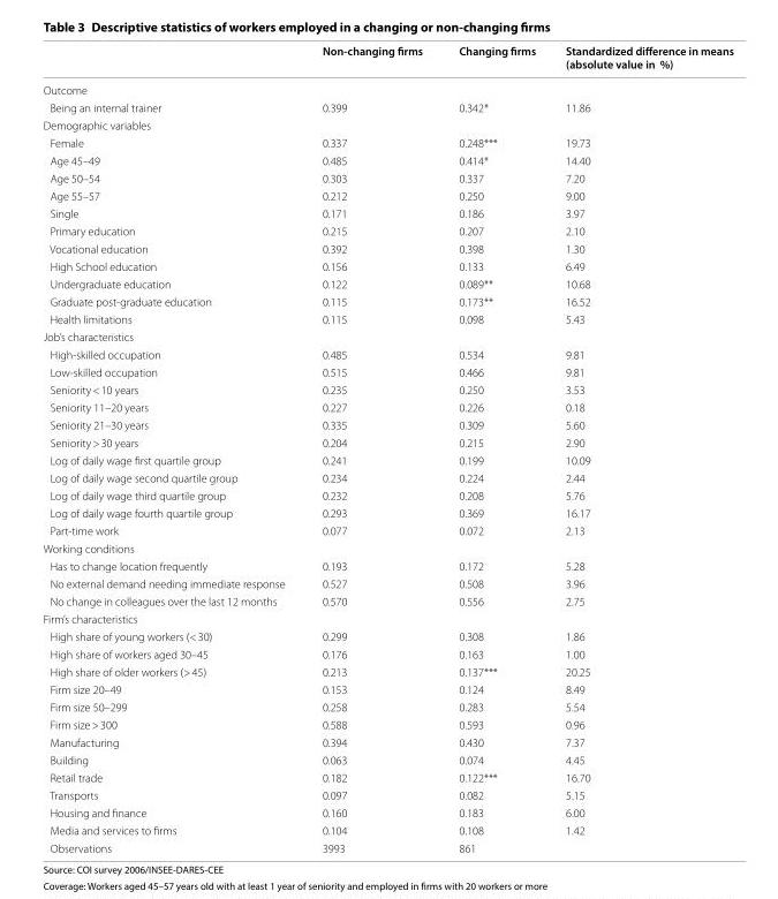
<table><thead><tr><td></td><td>Non-changing firms</td><td>Changing firms</td><td>Standardized difference in means (absolute value in %)</td></tr></thead><tbody><tr><td colspan="4">Outcome</td></tr><tr><td>Being an internal trainer</td><td>0.399</td><td>0.342*</td><td>11.86</td></tr><tr><td colspan="4">Demographic variables</td></tr><tr><td>Female</td><td>0.337</td><td>0.248***</td><td>19.73</td></tr><tr><td>Age 45–49</td><td>0.485</td><td>0.414*</td><td>14.40</td></tr><tr><td>Age 50–54</td><td>0.303</td><td>0.337</td><td>7.20</td></tr><tr><td>Age 55–57</td><td>0.212</td><td>0.250</td><td>9.00</td></tr><tr><td>Single</td><td>0.171</td><td>0.186</td><td>3.97</td></tr><tr><td>Primary education</td><td>0.215</td><td>0.207</td><td>2.10</td></tr><tr><td>Vocational education</td><td>0.392</td><td>0.398</td><td>1.30</td></tr><tr><td>High School education</td><td>0.156</td><td>0.133</td><td>6.49</td></tr><tr><td>Undergraduate education</td><td>0.122</td><td>0.089**</td><td>10.68</td></tr><tr><td>Graduate post‑graduate education</td><td>0.115</td><td>0.173**</td><td>16.52</td></tr><tr><td>Health limitations</td><td>0.115</td><td>0.098</td><td>5.43</td></tr><tr><td colspan="4">Job’s characteristics</td></tr><tr><td>High‑skilled occupation</td><td>0.485</td><td>0.534</td><td>9.81</td></tr><tr><td>Low‑skilled occupation</td><td>0.515</td><td>0.466</td><td>9.81</td></tr><tr><td>Seniority &lt; 10 years</td><td>0.235</td><td>0.250</td><td>3.53</td></tr><tr><td>Seniority 11–20 years</td><td>0.227</td><td>0.226</td><td>0.18</td></tr><tr><td>Seniority 21–30 years</td><td>0.335</td><td>0.309</td><td>5.60</td></tr><tr><td>Seniority &gt; 30 years</td><td>0.204</td><td>0.215</td><td>2.90</td></tr><tr><td>Log of daily wage first quartile group</td><td>0.241</td><td>0.199</td><td>10.09</td></tr><tr><td>Log of daily wage second quartile group</td><td>0.234</td><td>0.224</td><td>2.44</td></tr><tr><td>Log of daily wage third quartile group</td><td>0.232</td><td>0.208</td><td>5.76</td></tr><tr><td>Log of daily wage fourth quartile group</td><td>0.293</td><td>0.369</td><td>16.17</td></tr><tr><td>Part‑time work</td><td>0.077</td><td>0.072</td><td>2.13</td></tr><tr><td colspan="4">Working conditions</td></tr><tr><td>Has to change location frequently</td><td>0.193</td><td>0.172</td><td>5.28</td></tr><tr><td>No external demand needing immediate response</td><td>0.527</td><td>0.508</td><td>3.96</td></tr><tr><td>No change in colleagues over the last 12 months</td><td>0.570</td><td>0.556</td><td>2.75</td></tr><tr><td colspan="4">Firm’s characteristics</td></tr><tr><td>High share of young workers (&lt; 30)</td><td>0.299</td><td>0.308</td><td>1.86</td></tr><tr><td>High share of workers aged 30–45</td><td>0.176</td><td>0.163</td><td>1.00</td></tr><tr><td>High share of older workers (&gt; 45)</td><td>0.213</td><td>0.137***</td><td>20.25</td></tr><tr><td>Firm size 20–49</td><td>0.153</td><td>0.124</td><td>8.49</td></tr><tr><td>Firm size 50–299</td><td>0.258</td><td>0.283</td><td>5.54</td></tr><tr><td>Firm size &gt; 300</td><td>0.588</td><td>0.593</td><td>0.96</td></tr><tr><td>Manufacturing</td><td>0.394</td><td>0.430</td><td>7.37</td></tr><tr><td>Building</td><td>0.063</td><td>0.074</td><td>4.45</td></tr><tr><td>Retail trade</td><td>0.182</td><td>0.122***</td><td>16.70</td></tr><tr><td>Transports</td><td>0.097</td><td>0.082</td><td>5.15</td></tr><tr><td>Housing and finance</td><td>0.160</td><td>0.183</td><td>6.00</td></tr><tr><td>Media and services to firms</td><td>0.104</td><td>0.108</td><td>1.42</td></tr><tr><td>Observations</td><td>3993</td><td>861</td><td></td></tr></tbody></table>